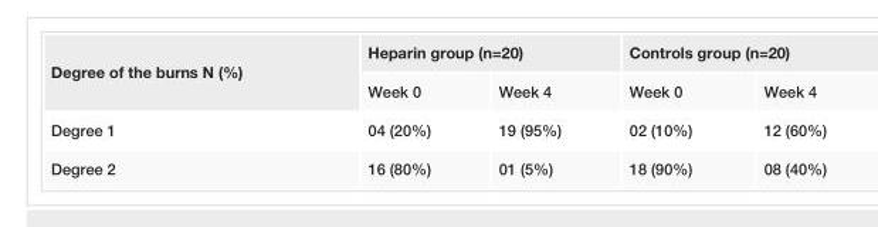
<table><tbody><tr><td rowspan="2">Degree of the burns N (%)</td><td colspan="2">Heparin group (n=20)</td><td colspan="2">Controls group (n=20)</td></tr><tr><td>Week 0</td><td>Week 4</td><td>Week 0</td><td>Week 4</td></tr><tr><td>Degree 1</td><td>04 (20%)</td><td>19 (95%)</td><td>02 (10%)</td><td>12 (60%)</td></tr><tr><td>Degree 2</td><td>16 (80%)</td><td>01 (5%)</td><td>18 (90%)</td><td>08 (40%)</td></tr></tbody></table>